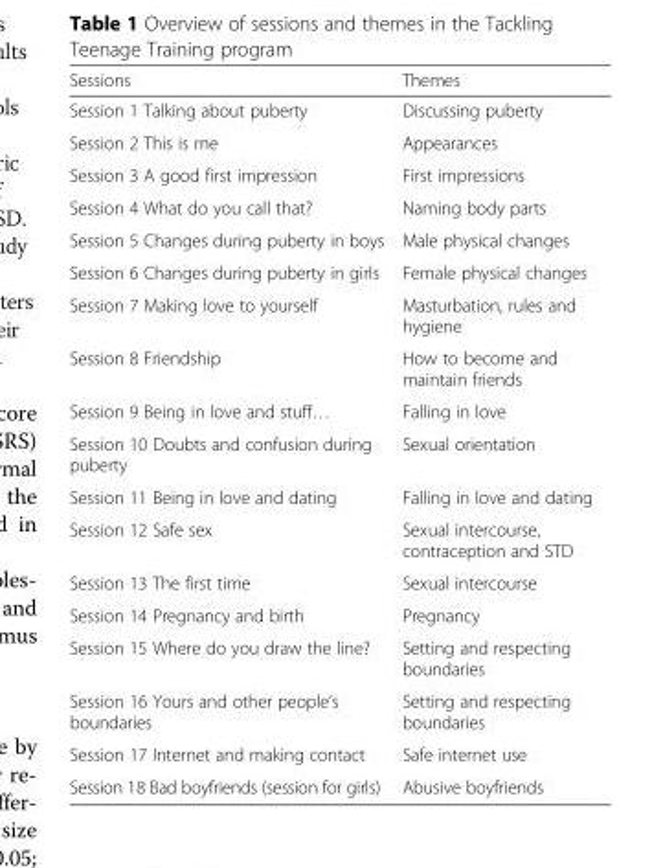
<table><thead><tr><td>Sessions</td><td>Themes</td></tr></thead><tbody><tr><td>Session 1 Talking about puberty</td><td>Discussing puberty</td></tr><tr><td>Session 2 This is me</td><td>Appearances</td></tr><tr><td>Session 3 A good first impression</td><td>First impressions</td></tr><tr><td>Session 4 What do you call that?</td><td>Naming body parts</td></tr><tr><td>Session 5 Changes during puberty in boys</td><td>Male physical changes</td></tr><tr><td>Session 6 Changes during puberty in girls</td><td>Female physical changes</td></tr><tr><td>Session 7 Making love to yourself</td><td>Masturbation, rules and hygiene</td></tr><tr><td>Session 8 Friendship</td><td>How to become and maintain friends</td></tr><tr><td>Session 9 Being in love and stuff…</td><td>Falling in love</td></tr><tr><td>Session 10 Doubts and confusion during puberty</td><td>Sexual orientation</td></tr><tr><td>Session 11 Being in love and dating</td><td>Falling in love and dating</td></tr><tr><td>Session 12 Safe sex</td><td>Sexual intercourse, contraception and STD</td></tr><tr><td>Session 13 The first time</td><td>Sexual intercourse</td></tr><tr><td>Session 14 Pregnancy and birth</td><td>Pregnancy</td></tr><tr><td>Session 15 Where do you draw the line?</td><td>Setting and respecting boundaries</td></tr><tr><td>Session 16 Yours and other people’s boundaries</td><td>Setting and respecting boundaries</td></tr><tr><td>Session 17 Internet and making contact</td><td>Safe internet use</td></tr><tr><td>Session 18 Bad boyfriends (session for girls)</td><td>Abusive boyfriends</td></tr></tbody></table>